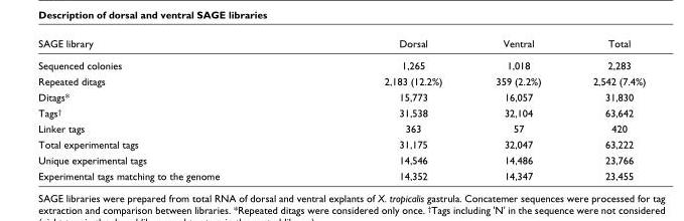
<table><thead><tr><td>SAGE library</td><td>Dorsal</td><td>Ventral</td><td>Total</td></tr></thead><tbody><tr><td>Sequenced colonies</td><td>1,265</td><td>1,018</td><td>2,283</td></tr><tr><td>Repeated ditags</td><td>2,183 (12.2%)</td><td>359 (2.2%)</td><td>2,542 (7.4%)</td></tr><tr><td>Ditags*</td><td>15,773</td><td>16,057</td><td>31,830</td></tr><tr><td>Tags<sup>†</sup></td><td>31,538</td><td>32,104</td><td>63,642</td></tr><tr><td>Linker tags</td><td>363</td><td>57</td><td>420</td></tr><tr><td>Total experimental tags</td><td>31,175</td><td>32,047</td><td>63,222</td></tr><tr><td>Unique experimental tags</td><td>14,546</td><td>14,486</td><td>23,766</td></tr><tr><td>Experimental tags matching to the genome</td><td>14,352</td><td>14,347</td><td>23,455</td></tr></tbody></table>